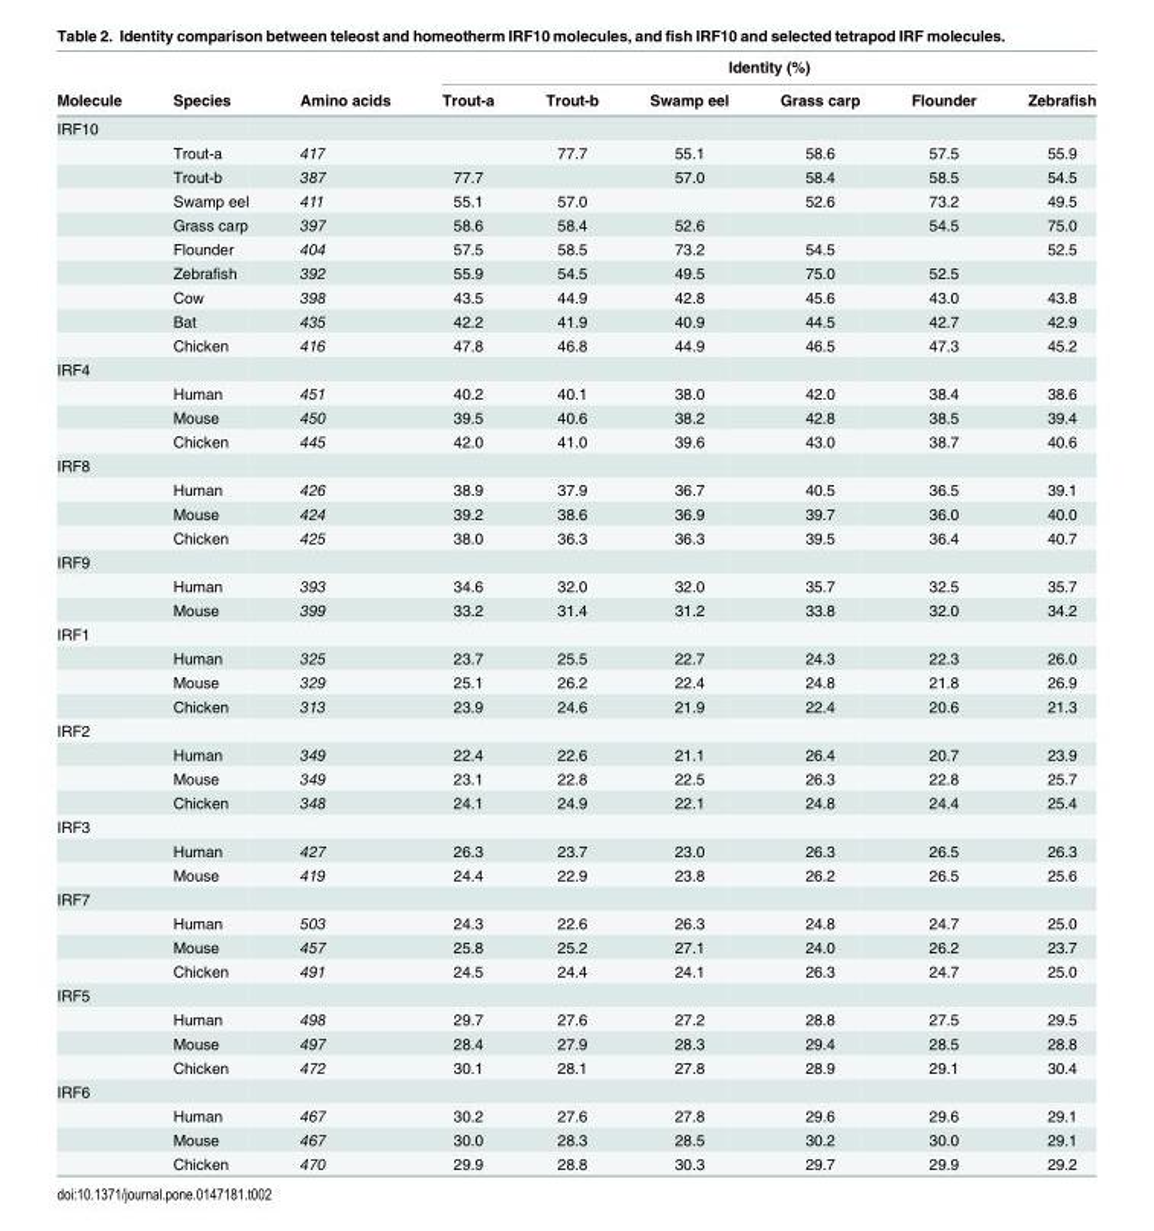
<table><thead><tr><td rowspan="2">Molecule</td><td rowspan="2">Species</td><td rowspan="2">Amino acids</td><td colspan="6">Identity (%)</td></tr><tr><td>Trout-a</td><td>Trout-b</td><td>Swamp eel</td><td>Grass carp</td><td>Flounder</td><td>Zebrafish</td></tr></thead><tbody><tr><td colspan="9">IRF10</td></tr><tr><td></td><td>Trout-a</td><td>417</td><td></td><td>77.7</td><td>55.1</td><td>58.6</td><td>57.5</td><td>55.9</td></tr><tr><td></td><td>Trout-b</td><td>387</td><td>77.7</td><td></td><td>57.0</td><td>58.4</td><td>58.5</td><td>54.5</td></tr><tr><td></td><td>Swamp eel</td><td>411</td><td>55.1</td><td>57.0</td><td></td><td>52.6</td><td>73.2</td><td>49.5</td></tr><tr><td></td><td>Grass carp</td><td>397</td><td>58.6</td><td>58.4</td><td>52.6</td><td></td><td>54.5</td><td>75.0</td></tr><tr><td></td><td>Flounder</td><td>404</td><td>57.5</td><td>58.5</td><td>73.2</td><td>54.5</td><td></td><td>52.5</td></tr><tr><td></td><td>Zebrafish</td><td>392</td><td>55.9</td><td>54.5</td><td>49.5</td><td>75.0</td><td>52.5</td><td></td></tr><tr><td></td><td>Cow</td><td>398</td><td>43.5</td><td>44.9</td><td>42.8</td><td>45.6</td><td>43.0</td><td>43.8</td></tr><tr><td></td><td>Bat</td><td>435</td><td>42.2</td><td>41.9</td><td>40.9</td><td>44.5</td><td>42.7</td><td>42.9</td></tr><tr><td></td><td>Chicken</td><td>416</td><td>47.8</td><td>46.8</td><td>44.9</td><td>46.5</td><td>47.3</td><td>45.2</td></tr><tr><td colspan="9">IRF4</td></tr><tr><td></td><td>Human</td><td>451</td><td>40.2</td><td>40.1</td><td>38.0</td><td>42.0</td><td>38.4</td><td>38.6</td></tr><tr><td></td><td>Mouse</td><td>450</td><td>39.5</td><td>40.6</td><td>38.2</td><td>42.8</td><td>38.5</td><td>39.4</td></tr><tr><td></td><td>Chicken</td><td>445</td><td>42.0</td><td>41.0</td><td>39.6</td><td>43.0</td><td>38.7</td><td>40.6</td></tr><tr><td colspan="9">IRF8</td></tr><tr><td></td><td>Human</td><td>426</td><td>38.9</td><td>37.9</td><td>36.7</td><td>40.5</td><td>36.5</td><td>39.1</td></tr><tr><td></td><td>Mouse</td><td>424</td><td>39.2</td><td>38.6</td><td>36.9</td><td>39.7</td><td>36.0</td><td>40.0</td></tr><tr><td></td><td>Chicken</td><td>425</td><td>38.0</td><td>36.3</td><td>36.3</td><td>39.5</td><td>36.4</td><td>40.7</td></tr><tr><td colspan="9">IRF9</td></tr><tr><td></td><td>Human</td><td>393</td><td>34.6</td><td>32.0</td><td>32.0</td><td>35.7</td><td>32.5</td><td>35.7</td></tr><tr><td></td><td>Mouse</td><td>399</td><td>33.2</td><td>31.4</td><td>31.2</td><td>33.8</td><td>32.0</td><td>34.2</td></tr><tr><td colspan="9">IRF1</td></tr><tr><td></td><td>Human</td><td>325</td><td>23.7</td><td>25.5</td><td>22.7</td><td>24.3</td><td>22.3</td><td>26.0</td></tr><tr><td></td><td>Mouse</td><td>329</td><td>25.1</td><td>26.2</td><td>22.4</td><td>24.8</td><td>21.8</td><td>26.9</td></tr><tr><td></td><td>Chicken</td><td>313</td><td>23.9</td><td>24.6</td><td>21.9</td><td>22.4</td><td>20.6</td><td>21.3</td></tr><tr><td colspan="9">IRF2</td></tr><tr><td></td><td>Human</td><td>349</td><td>22.4</td><td>22.6</td><td>21.1</td><td>26.4</td><td>20.7</td><td>23.9</td></tr><tr><td></td><td>Mouse</td><td>349</td><td>23.1</td><td>22.8</td><td>22.5</td><td>26.3</td><td>22.8</td><td>25.7</td></tr><tr><td></td><td>Chicken</td><td>348</td><td>24.1</td><td>24.9</td><td>22.1</td><td>24.8</td><td>24.4</td><td>25.4</td></tr><tr><td colspan="9">IRF3</td></tr><tr><td></td><td>Human</td><td>427</td><td>26.3</td><td>23.7</td><td>23.0</td><td>26.3</td><td>26.5</td><td>26.3</td></tr><tr><td></td><td>Mouse</td><td>419</td><td>24.4</td><td>22.9</td><td>23.8</td><td>26.2</td><td>26.5</td><td>25.6</td></tr><tr><td colspan="9">IRF7</td></tr><tr><td></td><td>Human</td><td>503</td><td>24.3</td><td>22.6</td><td>26.3</td><td>24.8</td><td>24.7</td><td>25.0</td></tr><tr><td></td><td>Mouse</td><td>457</td><td>25.8</td><td>25.2</td><td>27.1</td><td>24.0</td><td>26.2</td><td>23.7</td></tr><tr><td></td><td>Chicken</td><td>491</td><td>24.5</td><td>24.4</td><td>24.1</td><td>26.3</td><td>24.7</td><td>25.0</td></tr><tr><td colspan="9">IRF5</td></tr><tr><td></td><td>Human</td><td>498</td><td>29.7</td><td>27.6</td><td>27.2</td><td>28.8</td><td>27.5</td><td>29.5</td></tr><tr><td></td><td>Mouse</td><td>497</td><td>28.4</td><td>27.9</td><td>28.3</td><td>29.4</td><td>28.5</td><td>28.8</td></tr><tr><td></td><td>Chicken</td><td>472</td><td>30.1</td><td>28.1</td><td>27.8</td><td>28.9</td><td>29.1</td><td>30.4</td></tr><tr><td colspan="9">IRF6</td></tr><tr><td></td><td>Human</td><td>467</td><td>30.2</td><td>27.6</td><td>27.8</td><td>29.6</td><td>29.6</td><td>29.1</td></tr><tr><td></td><td>Mouse</td><td>467</td><td>30.0</td><td>28.3</td><td>28.5</td><td>30.2</td><td>30.0</td><td>29.1</td></tr><tr><td></td><td>Chicken</td><td>470</td><td>29.9</td><td>28.8</td><td>30.3</td><td>29.7</td><td>29.9</td><td>29.2</td></tr></tbody></table>